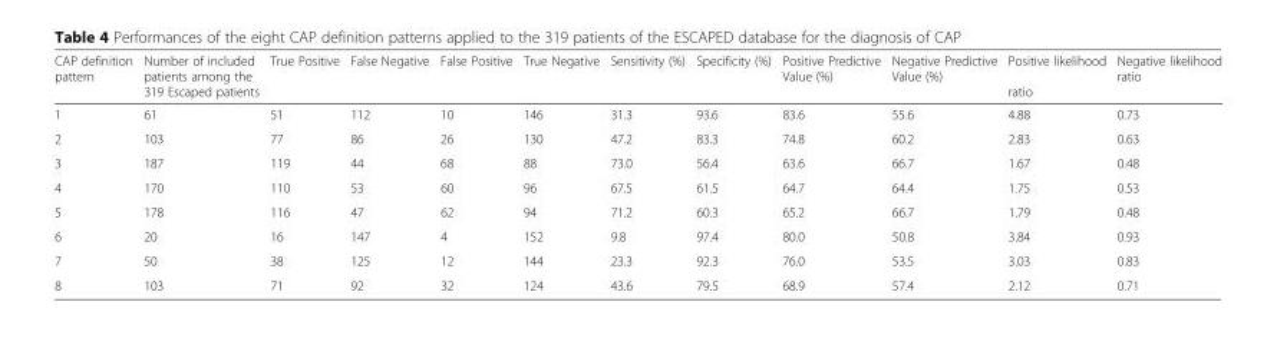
<table><thead><tr><td>CAP definition pattern</td><td>Number of included patients among the 319 Escaped patients</td><td>True Positive</td><td>False Negative</td><td>False Positive</td><td>True Negative</td><td>Sensitivity (%)</td><td>Specificity (%)</td><td>Positive Predictive Value (%)</td><td>Negative Predictive Value (%)</td><td>Positive likelihood ratio</td><td>Negative likelihood ratio</td></tr></thead><tbody><tr><td>1</td><td>61</td><td>51</td><td>112</td><td>10</td><td>146</td><td>31.3</td><td>93.6</td><td>83.6</td><td>55.6</td><td>4.88</td><td>0.73</td></tr><tr><td>2</td><td>103</td><td>77</td><td>86</td><td>26</td><td>130</td><td>47.2</td><td>83.3</td><td>74.8</td><td>60.2</td><td>2.83</td><td>0.63</td></tr><tr><td>3</td><td>187</td><td>119</td><td>44</td><td>68</td><td>88</td><td>73.0</td><td>56.4</td><td>63.6</td><td>66.7</td><td>1.67</td><td>0.48</td></tr><tr><td>4</td><td>170</td><td>110</td><td>53</td><td>60</td><td>96</td><td>67.5</td><td>61.5</td><td>64.7</td><td>64.4</td><td>1.75</td><td>0.53</td></tr><tr><td>5</td><td>178</td><td>116</td><td>47</td><td>62</td><td>94</td><td>71.2</td><td>60.3</td><td>65.2</td><td>66.7</td><td>1.79</td><td>0.48</td></tr><tr><td>6</td><td>20</td><td>16</td><td>147</td><td>4</td><td>152</td><td>9.8</td><td>97.4</td><td>80.0</td><td>50.8</td><td>3.84</td><td>0.93</td></tr><tr><td>7</td><td>50</td><td>38</td><td>125</td><td>12</td><td>144</td><td>23.3</td><td>92.3</td><td>76.0</td><td>53.5</td><td>3.03</td><td>0.83</td></tr><tr><td>8</td><td>103</td><td>71</td><td>92</td><td>32</td><td>124</td><td>43.6</td><td>79.5</td><td>68.9</td><td>57.4</td><td>2.12</td><td>0.71</td></tr></tbody></table>